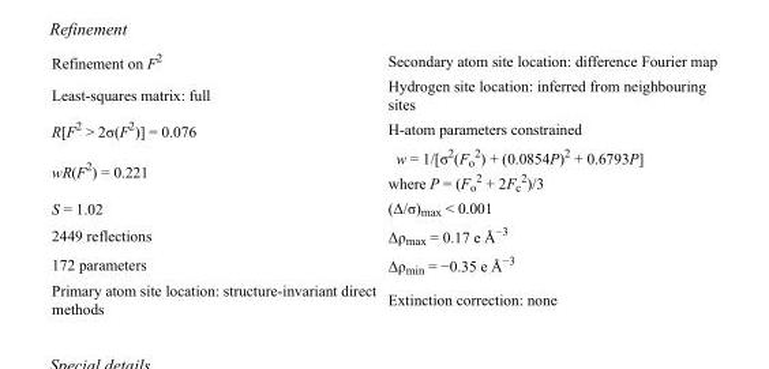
<table><tbody><tr><td>Refinement on F<sup>2</sup></td><td>Secondary atom site location: difference Fourier map</td></tr><tr><td>Least-squares matrix: full</td><td>Hydrogen site location: inferred from neighbouring sites</td></tr><tr><td>R[F<sup>2</sup> &gt; 2σ(F<sup>2</sup>)] = 0.076</td><td>H-atom parameters constrained</td></tr><tr><td>wR(F<sup>2</sup>) = 0.221</td><td>w = 1/[σ<sup>2</sup>(F<sub>o</sub> <sup>2</sup>) + (0.0854P)<sup>2</sup> + 0.6793P] where P = (F<sub>o</sub> <sup>2</sup> + 2F<sub>c</sub> <sup>2</sup>)/3</td></tr><tr><td>S = 1.02</td><td>(Δ/σ)<sub>max</sub> &lt; 0.001</td></tr><tr><td>2449 reflections</td><td>Δρ<sub>max</sub> = 0.17 e Å<sup>−3</sup></td></tr><tr><td>172 parameters</td><td>Δρ<sub>min</sub> = −0.35 e Å<sup>−3</sup></td></tr><tr><td>Primary atom site location: structure-invariant direct methods</td><td>Extinction correction: none</td></tr></tbody></table>